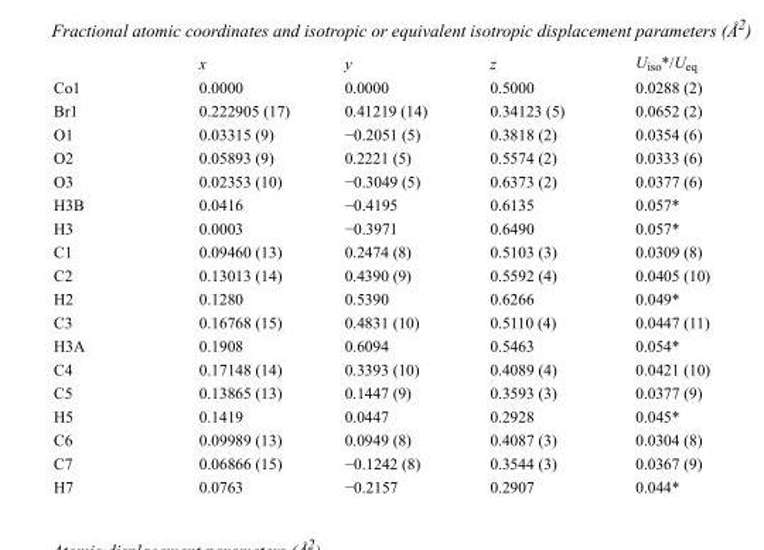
<table><thead><tr><td></td><td>x</td><td>y</td><td>z</td><td>U<sub>iso</sub>*/U<sub>eq</sub></td></tr></thead><tbody><tr><td>Co1</td><td>0.0000</td><td>0.0000</td><td>0.5000</td><td>0.0288 (2)</td></tr><tr><td>Br1</td><td>0.222905 (17)</td><td>0.41219 (14)</td><td>0.34123 (5)</td><td>0.0652 (2)</td></tr><tr><td>O1</td><td>0.03315 (9)</td><td>−0.2051 (5)</td><td>0.3818 (2)</td><td>0.0354 (6)</td></tr><tr><td>O2</td><td>0.05893 (9)</td><td>0.2221 (5)</td><td>0.5574 (2)</td><td>0.0333 (6)</td></tr><tr><td>O3</td><td>0.02353 (10)</td><td>−0.3049 (5)</td><td>0.6373 (2)</td><td>0.0377 (6)</td></tr><tr><td>H3B</td><td>0.0416</td><td>−0.4195</td><td>0.6135</td><td>0.057*</td></tr><tr><td>H3</td><td>0.0003</td><td>−0.3971</td><td>0.6490</td><td>0.057*</td></tr><tr><td>C1</td><td>0.09460 (13)</td><td>0.2474 (8)</td><td>0.5103 (3)</td><td>0.0309 (8)</td></tr><tr><td>C2</td><td>0.13013 (14)</td><td>0.4390 (9)</td><td>0.5592 (4)</td><td>0.0405 (10)</td></tr><tr><td>H2</td><td>0.1280</td><td>0.5390</td><td>0.6266</td><td>0.049*</td></tr><tr><td>C3</td><td>0.16768 (15)</td><td>0.4831 (10)</td><td>0.5110 (4)</td><td>0.0447 (11)</td></tr><tr><td>H3A</td><td>0.1908</td><td>0.6094</td><td>0.5463</td><td>0.054*</td></tr><tr><td>C4</td><td>0.17148 (14)</td><td>0.3393 (10)</td><td>0.4089 (4)</td><td>0.0421 (10)</td></tr><tr><td>C5</td><td>0.13865 (13)</td><td>0.1447 (9)</td><td>0.3593 (3)</td><td>0.0377 (9)</td></tr><tr><td>H5</td><td>0.1419</td><td>0.0447</td><td>0.2928</td><td>0.045*</td></tr><tr><td>C6</td><td>0.09989 (13)</td><td>0.0949 (8)</td><td>0.4087 (3)</td><td>0.0304 (8)</td></tr><tr><td>C7</td><td>0.06866 (15)</td><td>−0.1242 (8)</td><td>0.3544 (3)</td><td>0.0367 (9)</td></tr><tr><td>H7</td><td>0.0763</td><td>−0.2157</td><td>0.2907</td><td>0.044*</td></tr></tbody></table>